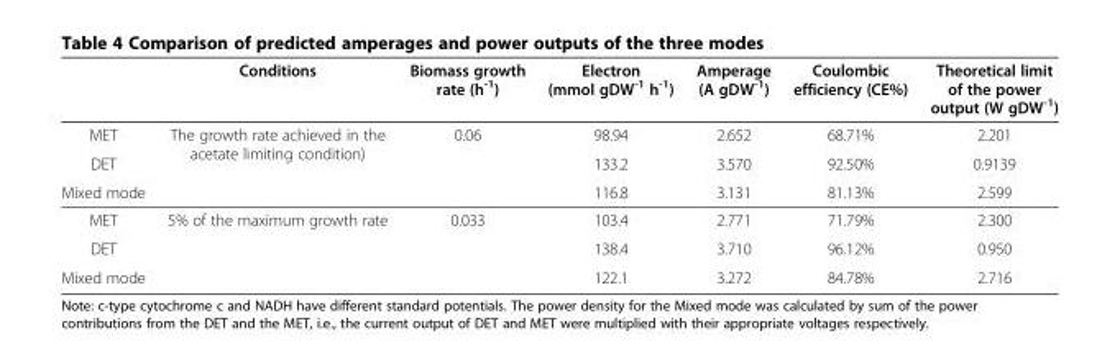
<table><thead><tr><td></td><td>Conditions</td><td>Biomass growth rate (h<sup>-1</sup>)</td><td>Electron (mmol gDW<sup>-1</sup> h<sup>-1</sup>)</td><td>Amperage (A gDW<sup>-1</sup>)</td><td>Coulombic efficiency (CE%)</td><td>Theoretical limit of the power output (W gDW<sup>-1</sup>)</td></tr></thead><tbody><tr><td>MET</td><td rowspan="2">The growth rate achieved in the acetate limiting condition)</td><td rowspan="2">0.06</td><td>98.94</td><td>2.652</td><td>68.71%</td><td>2.201</td></tr><tr><td>DET</td><td>133.2</td><td>3.570</td><td>92.50%</td><td>0.9139</td></tr><tr><td>Mixed mode</td><td></td><td></td><td>116.8</td><td>3.131</td><td>81.13%</td><td>2.599</td></tr><tr><td>MET</td><td rowspan="2">5% of the maximum growth rate</td><td rowspan="2">0.033</td><td>103.4</td><td>2.771</td><td>71.79%</td><td>2.300</td></tr><tr><td>DET</td><td>138.4</td><td>3.710</td><td>96.12%</td><td>0.950</td></tr><tr><td>Mixed mode</td><td></td><td></td><td>122.1</td><td>3.272</td><td>84.78%</td><td>2.716</td></tr></tbody></table>